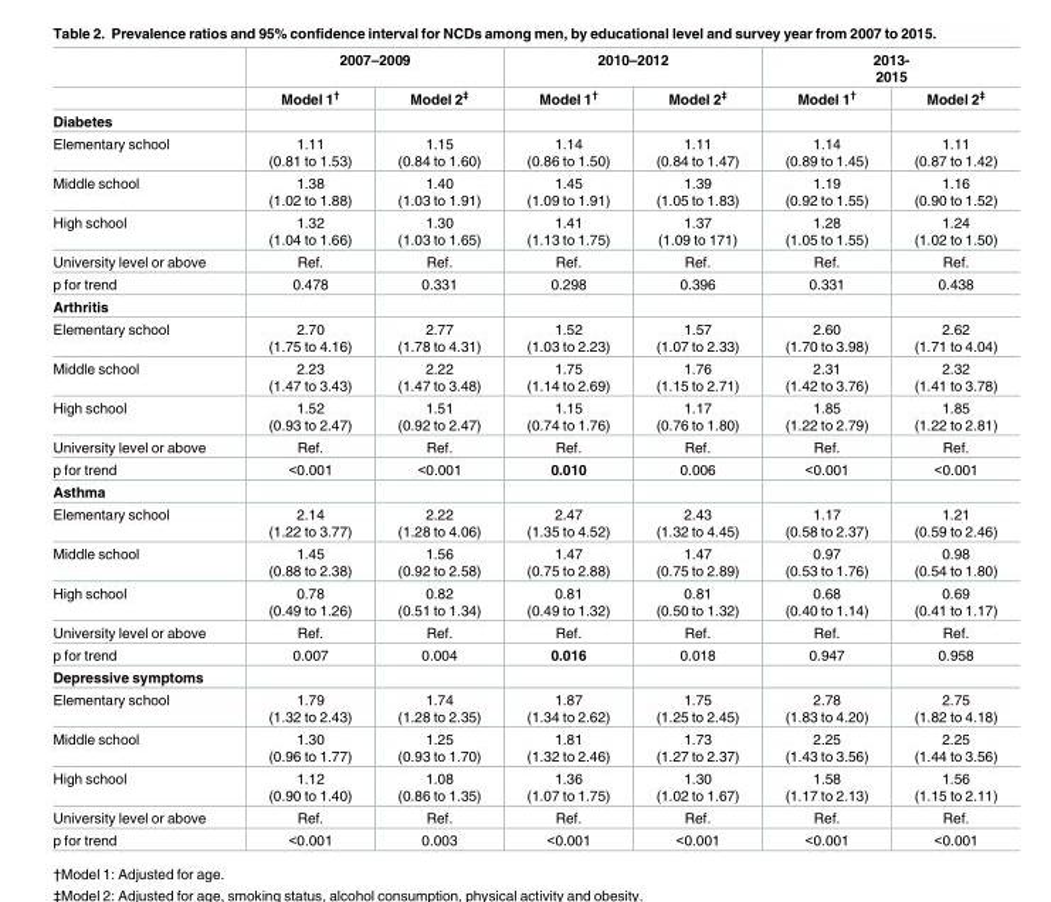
<table><thead><tr><td rowspan="2"></td><td colspan="2">2007–2009</td><td colspan="2">2010–2012</td><td colspan="2">2013- 2015</td></tr><tr><td>Model 1<sup>†</sup></td><td>Model 2<sup>‡</sup></td><td>Model 1<sup>†</sup></td><td>Model 2<sup>‡</sup></td><td>Model 1<sup>†</sup></td><td>Model 2<sup>‡</sup></td></tr></thead><tbody><tr><td colspan="7">Diabetes</td></tr><tr><td>Elementary school</td><td>1.11 (0.81 to 1.53)</td><td>1.15 (0.84 to 1.60)</td><td>1.14 (0.86 to 1.50)</td><td>1.11 (0.84 to 1.47)</td><td>1.14 (0.89 to 1.45)</td><td>1.11 (0.87 to 1.42)</td></tr><tr><td>Middle school</td><td>1.38 (1.02 to 1.88)</td><td>1.40 (1.03 to 1.91)</td><td>1.45 (1.09 to 1.91)</td><td>1.39 (1.05 to 1.83)</td><td>1.19 (0.92 to 1.55)</td><td>1.16 (0.90 to 1.52)</td></tr><tr><td>High school</td><td>1.32 (1.04 to 1.66)</td><td>1.30 (1.03 to 1.65)</td><td>1.41 (1.13 to 1.75)</td><td>1.37 (1.09 to 171)</td><td>1.28 (1.05 to 1.55)</td><td>1.24 (1.02 to 1.50)</td></tr><tr><td>University level or above</td><td>Ref.</td><td>Ref.</td><td>Ref.</td><td>Ref.</td><td>Ref.</td><td>Ref.</td></tr><tr><td>p for trend</td><td>0.478</td><td>0.331</td><td>0.298</td><td>0.396</td><td>0.331</td><td>0.438</td></tr><tr><td colspan="7">Arthritis</td></tr><tr><td>Elementary school</td><td>2.70 (1.75 to 4.16)</td><td>2.77 (1.78 to 4.31)</td><td>1.52 (1.03 to 2.23)</td><td>1.57 (1.07 to 2.33)</td><td>2.60 (1.70 to 3.98)</td><td>2.62 (1.71 to 4.04)</td></tr><tr><td>Middle school</td><td>2.23 (1.47 to 3.43)</td><td>2.22 (1.47 to 3.48)</td><td>1.75 (1.14 to 2.69)</td><td>1.76 (1.15 to 2.71)</td><td>2.31 (1.42 to 3.76)</td><td>2.32 (1.41 to 3.78)</td></tr><tr><td>High school</td><td>1.52 (0.93 to 2.47)</td><td>1.51 (0.92 to 2.47)</td><td>1.15 (0.74 to 1.76)</td><td>1.17 (0.76 to 1.80)</td><td>1.85 (1.22 to 2.79)</td><td>1.85 (1.22 to 2.81)</td></tr><tr><td>University level or above</td><td>Ref.</td><td>Ref.</td><td>Ref.</td><td>Ref.</td><td>Ref.</td><td>Ref.</td></tr><tr><td>p for trend</td><td>&lt;0.001</td><td>&lt;0.001</td><td>0.010</td><td>0.006</td><td>&lt;0.001</td><td>&lt;0.001</td></tr><tr><td colspan="7">Asthma</td></tr><tr><td>Elementary school</td><td>2.14 (1.22 to 3.77)</td><td>2.22 (1.28 to 4.06)</td><td>2.47 (1.35 to 4.52)</td><td>2.43 (1.32 to 4.45)</td><td>1.17 (0.58 to 2.37)</td><td>1.21 (0.59 to 2.46)</td></tr><tr><td>Middle school</td><td>1.45 (0.88 to 2.38)</td><td>1.56 (0.92 to 2.58)</td><td>1.47 (0.75 to 2.88)</td><td>1.47 (0.75 to 2.89)</td><td>0.97 (0.53 to 1.76)</td><td>0.98 (0.54 to 1.80)</td></tr><tr><td>High school</td><td>0.78 (0.49 to 1.26)</td><td>0.82 (0.51 to 1.34)</td><td>0.81 (0.49 to 1.32)</td><td>0.81 (0.50 to 1.32)</td><td>0.68 (0.40 to 1.14)</td><td>0.69 (0.41 to 1.17)</td></tr><tr><td>University level or above</td><td>Ref.</td><td>Ref.</td><td>Ref.</td><td>Ref.</td><td>Ref.</td><td>Ref.</td></tr><tr><td>p for trend</td><td>0.007</td><td>0.004</td><td>0.016</td><td>0.018</td><td>0.947</td><td>0.958</td></tr><tr><td colspan="7">Depressive symptoms</td></tr><tr><td>Elementary school</td><td>1.79 (1.32 to 2.43)</td><td>1.74 (1.28 to 2.35)</td><td>1.87 (1.34 to 2.62)</td><td>1.75 (1.25 to 2.45)</td><td>2.78 (1.83 to 4.20)</td><td>2.75 (1.82 to 4.18)</td></tr><tr><td>Middle school</td><td>1.30 (0.96 to 1.77)</td><td>1.25 (0.93 to 1.70)</td><td>1.81 (1.32 to 2.46)</td><td>1.73 (1.27 to 2.37)</td><td>2.25 (1.43 to 3.56)</td><td>2.25 (1.44 to 3.56)</td></tr><tr><td>High school</td><td>1.12 (0.90 to 1.40)</td><td>1.08 (0.86 to 1.35)</td><td>1.36 (1.07 to 1.75)</td><td>1.30 (1.02 to 1.67)</td><td>1.58 (1.17 to 2.13)</td><td>1.56 (1.15 to 2.11)</td></tr><tr><td>University level or above</td><td>Ref.</td><td>Ref.</td><td>Ref.</td><td>Ref.</td><td>Ref.</td><td>Ref.</td></tr><tr><td>p for trend</td><td>&lt;0.001</td><td>0.003</td><td>&lt;0.001</td><td>&lt;0.001</td><td>&lt;0.001</td><td>&lt;0.001</td></tr></tbody></table>